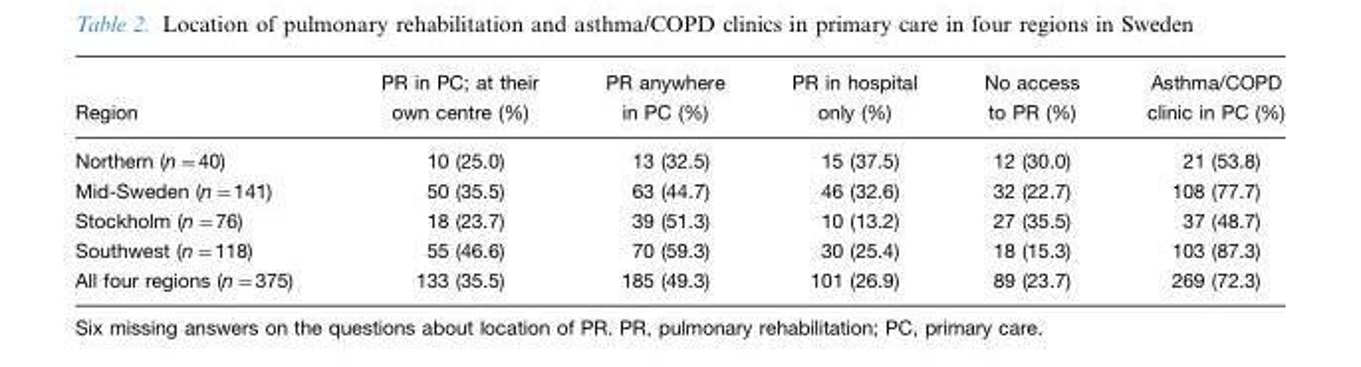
<table><thead><tr><td>Region</td><td>PR in PC; at their own centre (%)</td><td>PR anywhere in PC (%)</td><td>PR in hospital only (%)</td><td>No access to PR (%)</td><td>Asthma/COPD clinic in PC (%)</td></tr></thead><tbody><tr><td>Northern (n=40)</td><td>10 (25.0)</td><td>13 (32.5)</td><td>15 (37.5)</td><td>12 (30.0)</td><td>21 (53.8)</td></tr><tr><td>Mid-Sweden (n=141)</td><td>50 (35.5)</td><td>63 (44.7)</td><td>46 (32.6)</td><td>32 (22.7)</td><td>108 (77.7)</td></tr><tr><td>Stockholm (n=76)</td><td>18 (23.7)</td><td>39 (51.3)</td><td>10 (13.2)</td><td>27 (35.5)</td><td>37 (48.7)</td></tr><tr><td>Southwest (n=118)</td><td>55 (46.6)</td><td>70 (59.3)</td><td>30 (25.4)</td><td>18 (15.3)</td><td>103 (87.3)</td></tr><tr><td>All four regions (n=375)</td><td>133 (35.5)</td><td>185 (49.3)</td><td>101 (26.9)</td><td>89 (23.7)</td><td>269 (72.3)</td></tr></tbody></table>